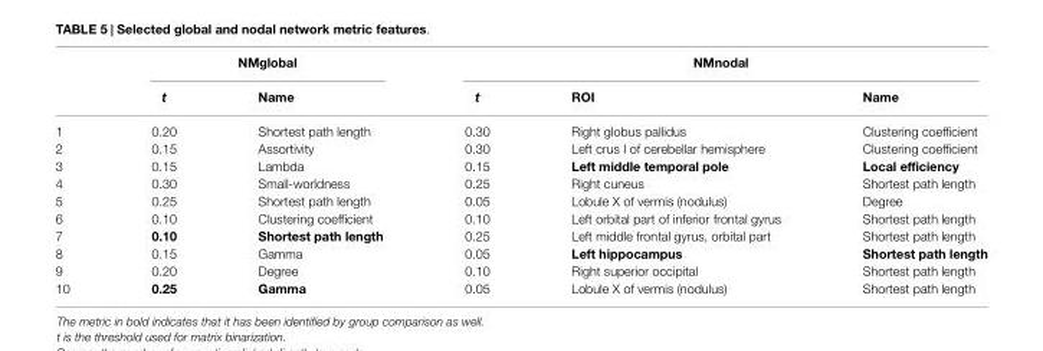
<table><thead><tr><td rowspan="2"></td><td colspan="2">NMglobal</td><td colspan="3">NMnodal</td></tr><tr><td>t</td><td>Name</td><td>t</td><td>ROI</td><td>Name</td></tr></thead><tbody><tr><td>1</td><td>0.20</td><td>Shortest path length</td><td>0.30</td><td>Right globus pallidus</td><td>Clustering coefficient</td></tr><tr><td>2</td><td>0.15</td><td>Assortivity</td><td>0.30</td><td>Left crus I of cerebellar hemisphere</td><td>Clustering coefficient</td></tr><tr><td>3</td><td>0.15</td><td>Lambda</td><td>0.15</td><td>Left middle temporal pole</td><td>Local efficiency</td></tr><tr><td>4</td><td>0.30</td><td>Small-worldness</td><td>0.25</td><td>Right cuneus</td><td>Shortest path length</td></tr><tr><td>5</td><td>0.25</td><td>Shortest path length</td><td>0.05</td><td>Lobule X of vermis (nodulus)</td><td>Degree</td></tr><tr><td>6</td><td>0.10</td><td>Clustering coefficient</td><td>0.10</td><td>Left orbital part of inferior frontal gyrus</td><td>Shortest path length</td></tr><tr><td>7</td><td>0.10</td><td>Shortest path length</td><td>0.25</td><td>Left middle frontal gyrus, orbital part</td><td>Shortest path length</td></tr><tr><td>8</td><td>0.15</td><td>Gamma</td><td>0.05</td><td>Left hippocampus</td><td>Shortest path length</td></tr><tr><td>9</td><td>0.20</td><td>Degree</td><td>0.10</td><td>Right superior occipital</td><td>Shortest path length</td></tr><tr><td>10</td><td>0.25</td><td>Gamma</td><td>0.05</td><td>Lobule X of vermis (nodulus)</td><td>Shortest path length</td></tr></tbody></table>